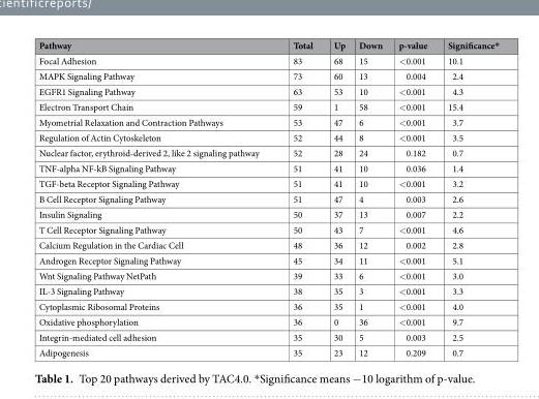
<table><thead><tr><td>Pathway</td><td>Total</td><td>Up</td><td>Down</td><td>p-value</td><td>Significance*</td></tr></thead><tbody><tr><td>Focal Adhesion</td><td>83</td><td>68</td><td>15</td><td>&lt;0.001</td><td>10.1</td></tr><tr><td>MAPK Signaling Pathway</td><td>73</td><td>60</td><td>13</td><td>0.004</td><td>2.4</td></tr><tr><td>EGFR1 Signaling Pathway</td><td>63</td><td>53</td><td>10</td><td>&lt;0.001</td><td>4.3</td></tr><tr><td>Electron Transport Chain</td><td>59</td><td>1</td><td>58</td><td>&lt;0.001</td><td>15.4</td></tr><tr><td>Myometrial Relaxation and Contraction Pathways</td><td>53</td><td>47</td><td>6</td><td>&lt;0.001</td><td>3.7</td></tr><tr><td>Regulation of Actin Cytoskeleton</td><td>52</td><td>44</td><td>8</td><td>&lt;0.001</td><td>3.5</td></tr><tr><td>Nuclear factor, erythroid-derived 2, like 2 signaling pathway</td><td>52</td><td>28</td><td>24</td><td>0.182</td><td>0.7</td></tr><tr><td>TNF-alpha NF-kB Signaling Pathway</td><td>51</td><td>41</td><td>10</td><td>0.036</td><td>1.4</td></tr><tr><td>TGF-beta Receptor Signaling Pathway</td><td>51</td><td>41</td><td>10</td><td>&lt;0.001</td><td>3.2</td></tr><tr><td>B Cell Receptor Signaling Pathway</td><td>51</td><td>47</td><td>4</td><td>0.003</td><td>2.6</td></tr><tr><td>Insulin Signaling</td><td>50</td><td>37</td><td>13</td><td>0.007</td><td>2.2</td></tr><tr><td>T Cell Receptor Signaling Pathway</td><td>50</td><td>43</td><td>7</td><td>&lt;0.001</td><td>4.6</td></tr><tr><td>Calcium Regulation in the Cardiac Cell</td><td>48</td><td>36</td><td>12</td><td>0.002</td><td>2.8</td></tr><tr><td>Androgen Receptor Signaling Pathway</td><td>45</td><td>34</td><td>11</td><td>&lt;0.001</td><td>5.1</td></tr><tr><td>Wnt Signaling Pathway NetPath</td><td>39</td><td>33</td><td>6</td><td>&lt;0.001</td><td>3.0</td></tr><tr><td>IL-3 Signaling Pathway</td><td>38</td><td>35</td><td>3</td><td>&lt;0.001</td><td>3.3</td></tr><tr><td>Cytoplasmic Ribosomal Proteins</td><td>36</td><td>35</td><td>1</td><td>&lt;0.001</td><td>4.0</td></tr><tr><td>Oxidative phosphorylation</td><td>36</td><td>0</td><td>36</td><td>&lt;0.001</td><td>9.7</td></tr><tr><td>Integrin-mediated cell adhesion</td><td>35</td><td>30</td><td>5</td><td>0.003</td><td>2.5</td></tr><tr><td>Adipogenesis</td><td>35</td><td>23</td><td>12</td><td>0.209</td><td>0.7</td></tr></tbody></table>